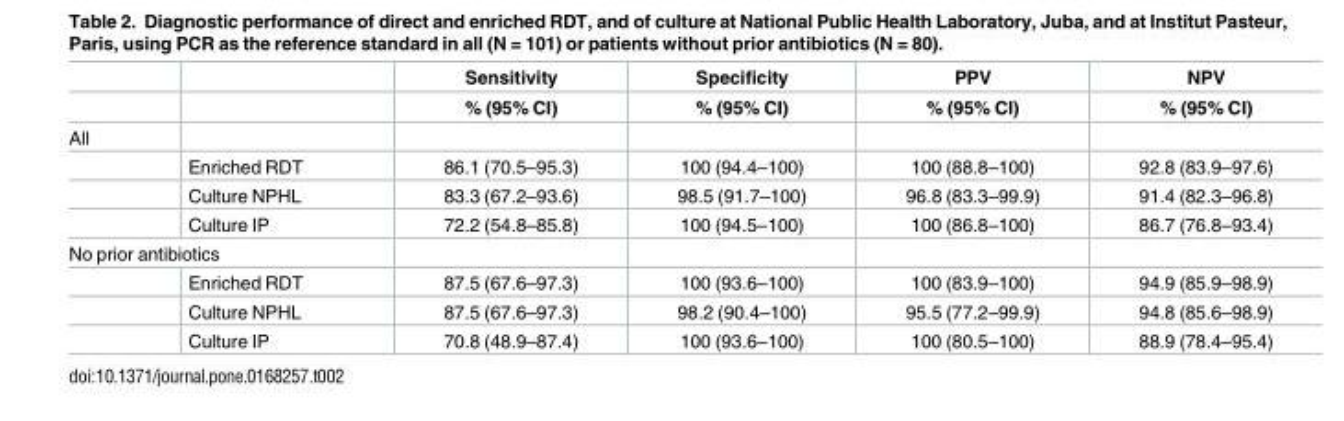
<table><thead><tr><td rowspan="2"></td><td rowspan="2"></td><td rowspan="2">Sensitivity % (95% CI)</td><td rowspan="2">Specificity % (95% CI)</td><td rowspan="2">PPV % (95% CI)</td><td rowspan="2">NPV % (95% CI)</td></tr><tr></tr></thead><tbody><tr><td colspan="6">All</td></tr><tr><td></td><td>Enriched RDT</td><td>86.1 (70.5–95.3)</td><td>100 (94.4–100)</td><td>100 (88.8–100)</td><td>92.8 (83.9–97.6)</td></tr><tr><td></td><td>Culture NPHL</td><td>83.3 (67.2–93.6)</td><td>98.5 (91.7–100)</td><td>96.8 (83.3–99.9)</td><td>91.4 (82.3–96.8)</td></tr><tr><td></td><td>Culture IP</td><td>72.2 (54.8–85.8)</td><td>100 (94.5–100)</td><td>100 (86.8–100)</td><td>86.7 (76.8–93.4)</td></tr><tr><td colspan="6">No prior antibiotics</td></tr><tr><td></td><td>Enriched RDT</td><td>87.5 (67.6–97.3)</td><td>100 (93.6–100)</td><td>100 (83.9–100)</td><td>94.9 (85.9–98.9)</td></tr><tr><td></td><td>Culture NPHL</td><td>87.5 (67.6–97.3)</td><td>98.2 (90.4–100)</td><td>95.5 (77.2–99.9)</td><td>94.8 (85.6–98.9)</td></tr><tr><td></td><td>Culture IP</td><td>70.8 (48.9–87.4)</td><td>100 (93.6–100)</td><td>100 (80.5–100)</td><td>88.9 (78.4–95.4)</td></tr></tbody></table>